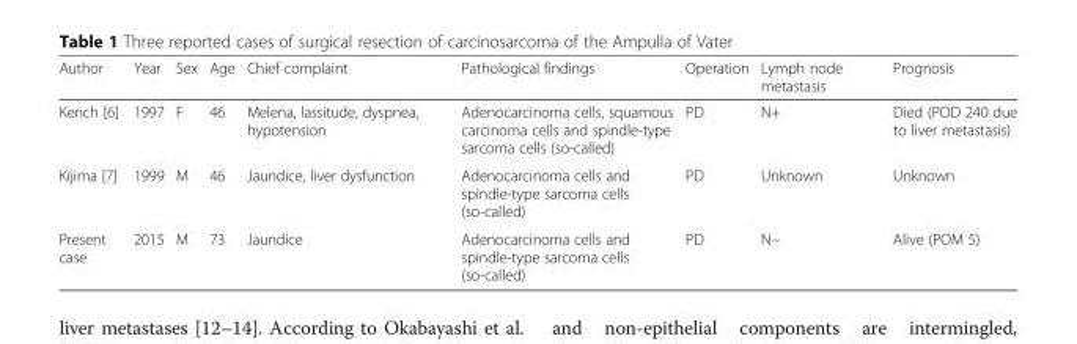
<table><thead><tr><td>Author</td><td>Year</td><td>Sex</td><td>Age</td><td>Chief complaint</td><td>Pathological findings</td><td>Operation</td><td>Lymph node metastasis</td><td>Prognosis</td></tr></thead><tbody><tr><td>Kench [6]</td><td>1997</td><td>F</td><td>46</td><td>Melena, lassitude, dyspnea, hypotension</td><td>Adenocarcinoma cells, squamous carcinoma cells and spindle-type sarcoma cells (so-called)</td><td>PD</td><td>N+</td><td>Died (POD 240 due to liver metastasis)</td></tr><tr><td>Kijima [7]</td><td>1999</td><td>M</td><td>46</td><td>Jaundice, liver dysfunction</td><td>Adenocarcinoma cells and spindle-type sarcoma cells (so-called)</td><td>PD</td><td>Unknown</td><td>Unknown</td></tr><tr><td>Present case</td><td>2015</td><td>M</td><td>73</td><td>Jaundice</td><td>Adenocarcinoma cells and spindle-type sarcoma cells (so-called)</td><td>PD</td><td>N−</td><td>Alive (POM 5)</td></tr></tbody></table>